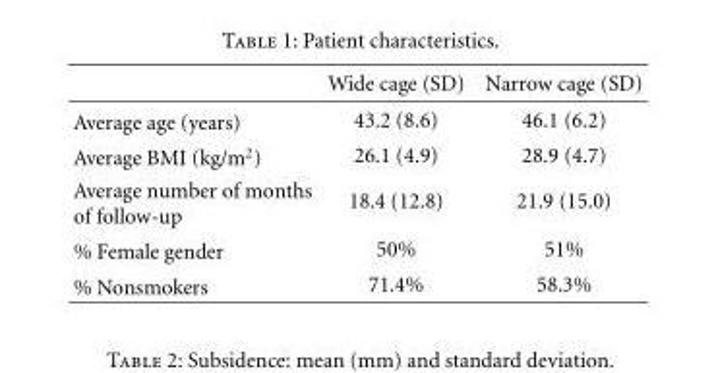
<table><thead><tr><td></td><td>Wide cage (SD)</td><td>Narrow cage (SD)</td></tr></thead><tbody><tr><td>Average age (years)</td><td>43.2 (8.6)</td><td>46.1 (6.2)</td></tr><tr><td>Average BMI (kg/m<sup>2</sup>)</td><td>26.1 (4.9)</td><td>28.9 (4.7)</td></tr><tr><td>Average number of months of follow-up</td><td>18.4 (12.8)</td><td>21.9 (15.0)</td></tr><tr><td>% Female gender</td><td>50%</td><td>51%</td></tr><tr><td>% Nonsmokers</td><td>71.4%</td><td>58.3%</td></tr></tbody></table>